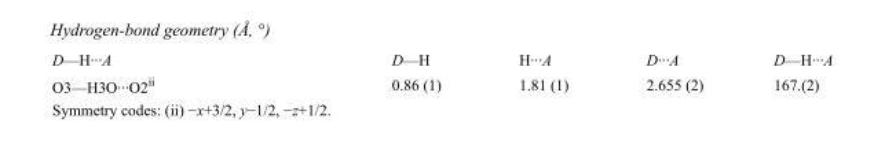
<table><tbody><tr><td>D—H···A</td><td>D—H</td><td>H···A</td><td>D···A</td><td>D—H···A</td></tr><tr><td>O3—H3O···O2<sup>ii</sup></td><td>0.86 (1)</td><td>1.81 (1)</td><td>2.655 (2)</td><td>167.(2)</td></tr></tbody></table>